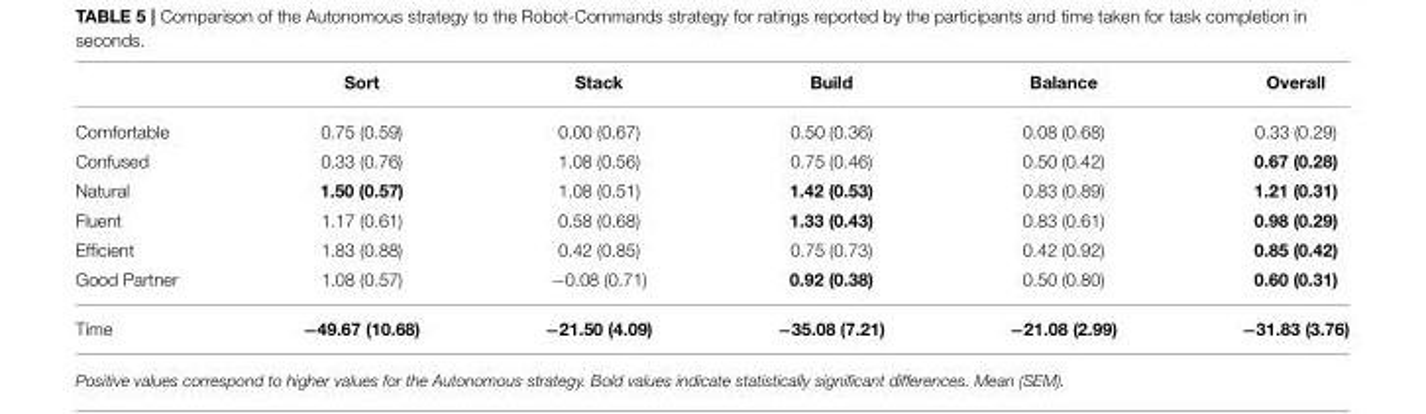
<table><thead><tr><td></td><td>Sort</td><td>Stack</td><td>Build</td><td>Balance</td><td>Overall</td></tr></thead><tbody><tr><td>Comfortable</td><td>0.75 (0.59)</td><td>0.00 (0.67)</td><td>0.50 (0.36)</td><td>0.08 (0.68)</td><td>0.33 (0.29)</td></tr><tr><td>Confused</td><td>0.33 (0.76)</td><td>1.08 (0.56)</td><td>0.75 (0.46)</td><td>0.50 (0.42)</td><td>0.67 (0.28)</td></tr><tr><td>Natural</td><td>1.50 (0.57)</td><td>1.08 (0.51)</td><td>1.42 (0.53)</td><td>0.83 (0.89)</td><td>1.21 (0.31)</td></tr><tr><td>Fluent</td><td>1.17 (0.61)</td><td>0.58 (0.68)</td><td>1.33 (0.43)</td><td>0.83 (0.61)</td><td>0.98 (0.29)</td></tr><tr><td>Efficient</td><td>1.83 (0.88)</td><td>0.42 (0.85)</td><td>0.75 (0.73)</td><td>0.42 (0.92)</td><td>0.85 (0.42)</td></tr><tr><td>Good Partner</td><td>1.08 (0.57)</td><td>−0.08 (0.71)</td><td>0.92 (0.38)</td><td>0.50 (0.80)</td><td>0.60 (0.31)</td></tr><tr><td>Time</td><td>−49.67 (10.68)</td><td>−21.50 (4.09)</td><td>−35.08 (7.21)</td><td>−21.08 (2.99)</td><td>−31.83 (3.76)</td></tr></tbody></table>